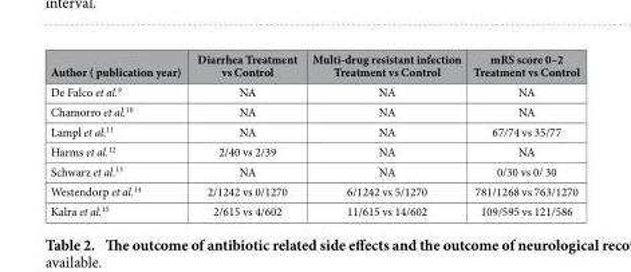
<table><thead><tr><td>Author ( publication year)</td><td>Diarrhea Treatment vs Control</td><td>Multi-drug resistant infection Treatment vs Control</td><td>mRS score 0–2 Treatment vs Control</td></tr></thead><tbody><tr><td>De Falco et al.<sup>9</sup></td><td>NA</td><td>NA</td><td>NA</td></tr><tr><td>Chamorro et al.<sup>10</sup></td><td>NA</td><td>NA</td><td>NA</td></tr><tr><td>Lampl et al.<sup>11</sup></td><td>NA</td><td>NA</td><td>67/74 vs 35/77</td></tr><tr><td>Harms et al.<sup>12</sup></td><td>2/40 vs 2/39</td><td>NA</td><td>NA</td></tr><tr><td>Schwarz et al.<sup>13</sup></td><td>NA</td><td>NA</td><td>0/30 vs 0/ 30</td></tr><tr><td>Westendorp et al.<sup>14</sup></td><td>2/1242 vs 0/1270</td><td>6/1242 vs 5/1270</td><td>781/1268 vs 763/1270</td></tr><tr><td>Kalra et al.<sup>15</sup></td><td>2/615 vs 4/602</td><td>11/615 vs 14/602</td><td>109/595 vs 121/586</td></tr></tbody></table>